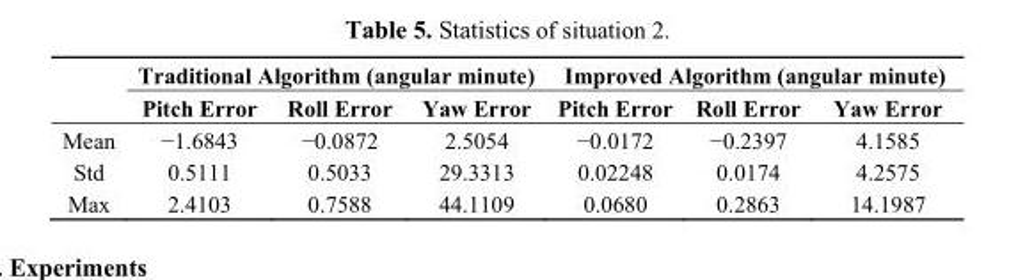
<table><thead><tr><td rowspan="2"></td><td colspan="3">Traditional Algorithm (angular minute)</td><td colspan="3">Improved Algorithm (angular minute)</td></tr><tr><td>Pitch Error</td><td>Roll Error</td><td>Yaw Error</td><td>Pitch Error</td><td>Roll Error</td><td>Yaw Error</td></tr></thead><tbody><tr><td>Mean</td><td>−1.6843</td><td>−0.0872</td><td>2.5054</td><td>−0.0172</td><td>−0.2397</td><td>4.1585</td></tr><tr><td>Std</td><td>0.5111</td><td>0.5033</td><td>29.3313</td><td>0.02248</td><td>0.0174</td><td>4.2575</td></tr><tr><td>Max</td><td>2.4103</td><td>0.7588</td><td>44.1109</td><td>0.0680</td><td>0.2863</td><td>14.1987</td></tr></tbody></table>